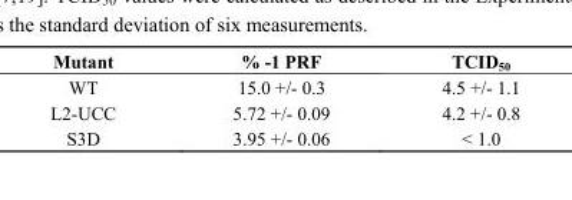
<table><thead><tr><td>Mutant</td><td>% -1 PRF</td><td>TCID<sub>50</sub></td></tr></thead><tbody><tr><td>WT</td><td>15.0 +/- 0.3</td><td>4.5 +/- 1.1</td></tr><tr><td>L2-UCC</td><td>5.72 +/- 0.09</td><td>4.2 +/- 0.8</td></tr><tr><td>S3D</td><td>3.95 +/- 0.06</td><td>&lt; 1.0</td></tr></tbody></table>